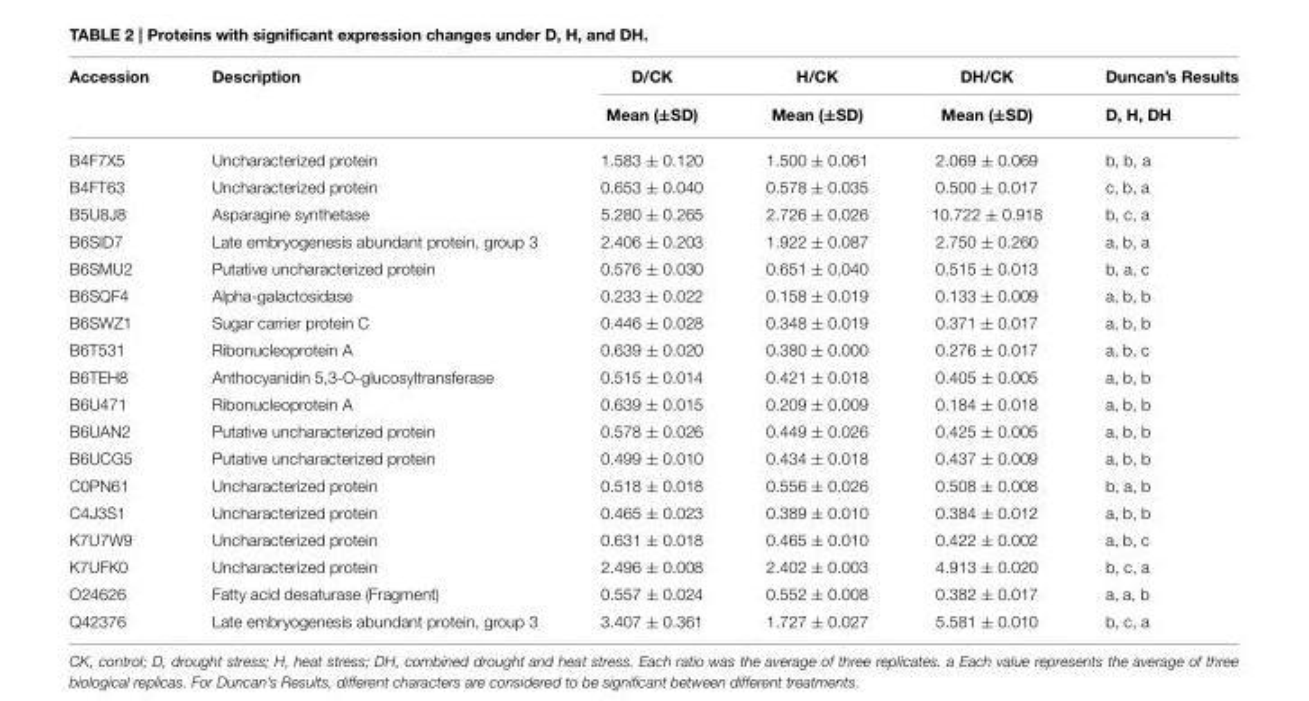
<table><thead><tr><td rowspan="2">Accession</td><td rowspan="2">Description</td><td rowspan="2">D/CK Mean (±SD)</td><td rowspan="2">H/CK Mean (±SD)</td><td rowspan="2">DH/CK Mean (±SD)</td><td rowspan="2">Duncan’s Results D, H, DH</td></tr><tr></tr></thead><tbody><tr><td>B4F7X5</td><td>Uncharacterized protein</td><td>1.583 ± 0.120</td><td>1.500 ± 0.061</td><td>2.069 ± 0.069</td><td>b, b, a</td></tr><tr><td>B4FT63</td><td>Uncharacterized protein</td><td>0.653 ± 0.040</td><td>0.578 ± 0.035</td><td>0.500 ± 0.017</td><td>c, b, a</td></tr><tr><td>B5U8J8</td><td>Asparagine synthetase</td><td>5.280 ± 0.265</td><td>2.726 ± 0.026</td><td>10.722 ± 0.918</td><td>b, c, a</td></tr><tr><td>B6SID7</td><td>Late embryogenesis abundant protein, group 3</td><td>2.406 ± 0.203</td><td>1.922 ± 0.087</td><td>2.750 ± 0.260</td><td>a, b, a</td></tr><tr><td>B6SMU2</td><td>Putative uncharacterized protein</td><td>0.576 ± 0.030</td><td>0.651 ± 0.040</td><td>0.515 ± 0.013</td><td>b, a, c</td></tr><tr><td>B6SQF4</td><td>Alpha-galactosidase</td><td>0.233 ± 0.022</td><td>0.158 ± 0.019</td><td>0.133 ± 0.009</td><td>a, b, b</td></tr><tr><td>B6SWZ1</td><td>Sugar carrier protein C</td><td>0.446 ± 0.028</td><td>0.348 ± 0.019</td><td>0.371 ± 0.017</td><td>a, b, b</td></tr><tr><td>B6T531</td><td>Ribonucleoprotein A</td><td>0.639 ± 0.020</td><td>0.380 ± 0.000</td><td>0.276 ± 0.017</td><td>a, b, c</td></tr><tr><td>B6TEH8</td><td>Anthocyanidin 5,3-O-glucosyltransferase</td><td>0.515 ± 0.014</td><td>0.421 ± 0.018</td><td>0.405 ± 0.005</td><td>a, b, b</td></tr><tr><td>B6U471</td><td>Ribonucleoprotein A</td><td>0.639 ± 0.015</td><td>0.209 ± 0.009</td><td>0.184 ± 0.018</td><td>a, b, b</td></tr><tr><td>B6UAN2</td><td>Putative uncharacterized protein</td><td>0.578 ± 0.026</td><td>0.449 ± 0.026</td><td>0.425 ± 0.005</td><td>a, b, b</td></tr><tr><td>B6UCG5</td><td>Putative uncharacterized protein</td><td>0.499 ± 0.010</td><td>0.434 ± 0.018</td><td>0.437 ± 0.009</td><td>a, b, b</td></tr><tr><td>C0PN61</td><td>Uncharacterized protein</td><td>0.518 ± 0.018</td><td>0.556 ± 0.026</td><td>0.508 ± 0.008</td><td>b, a, b</td></tr><tr><td>C4J3S1</td><td>Uncharacterized protein</td><td>0.465 ± 0.023</td><td>0.389 ± 0.010</td><td>0.384 ± 0.012</td><td>a, b, b</td></tr><tr><td>K7U7W9</td><td>Uncharacterized protein</td><td>0.631 ± 0.018</td><td>0.465 ± 0.010</td><td>0.422 ± 0.002</td><td>a, b, c</td></tr><tr><td>K7UFK0</td><td>Uncharacterized protein</td><td>2.496 ± 0.008</td><td>2.402 ± 0.003</td><td>4.913 ± 0.020</td><td>b, c, a</td></tr><tr><td>O24626</td><td>Fatty acid desaturase (Fragment)</td><td>0.557 ± 0.024</td><td>0.552 ± 0.008</td><td>0.382 ± 0.017</td><td>a, a, b</td></tr><tr><td>Q42376</td><td>Late embryogenesis abundant protein, group 3</td><td>3.407 ± 0.361</td><td>1.727 ± 0.027</td><td>5.581 ± 0.010</td><td>b, c, a</td></tr></tbody></table>